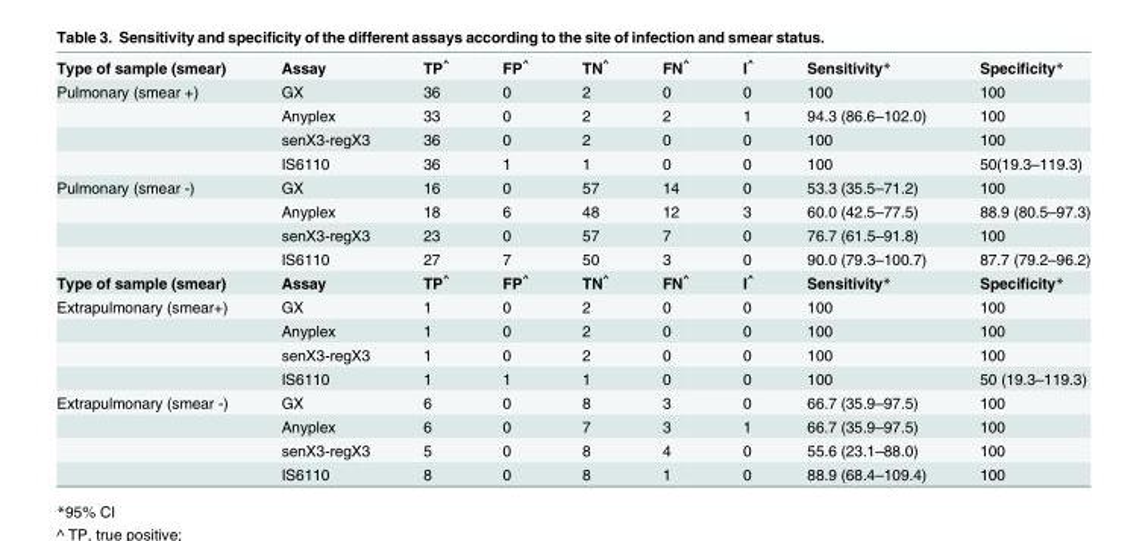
<table><tbody><tr><td>Type of sample (smear)</td><td>Assay</td><td>TP<sup>^</sup></td><td>FP<sup>^</sup></td><td>TN<sup>^</sup></td><td>FN<sup>^</sup></td><td>I<sup>^</sup></td><td>Sensitivity*</td><td>Specificity*</td></tr><tr><td rowspan="4">Pulmonary (smear +)</td><td>GX</td><td>36</td><td>0</td><td>2</td><td>0</td><td>0</td><td>100</td><td>100</td></tr><tr><td>Anyplex</td><td>33</td><td>0</td><td>2</td><td>2</td><td>1</td><td>94.3 (86.6–102.0)</td><td>100</td></tr><tr><td>senX3-regX3</td><td>36</td><td>0</td><td>2</td><td>0</td><td>0</td><td>100</td><td>100</td></tr><tr><td>IS6110</td><td>36</td><td>1</td><td>1</td><td>0</td><td>0</td><td>100</td><td>50(19.3–119.3)</td></tr><tr><td rowspan="4">Pulmonary (smear -)</td><td>GX</td><td>16</td><td>0</td><td>57</td><td>14</td><td>0</td><td>53.3 (35.5–71.2)</td><td>100</td></tr><tr><td>Anyplex</td><td>18</td><td>6</td><td>48</td><td>12</td><td>3</td><td>60.0 (42.5–77.5)</td><td>88.9 (80.5–97.3)</td></tr><tr><td>senX3-regX3</td><td>23</td><td>0</td><td>57</td><td>7</td><td>0</td><td>76.7 (61.5–91.8)</td><td>100</td></tr><tr><td>IS6110</td><td>27</td><td>7</td><td>50</td><td>3</td><td>0</td><td>90.0 (79.3–100.7)</td><td>87.7 (79.2–96.2)</td></tr><tr><td>Type of sample (smear)</td><td>Assay</td><td>TP<sup>^</sup></td><td>FP<sup>^</sup></td><td>TN<sup>^</sup></td><td>FN<sup>^</sup></td><td>I<sup>^</sup></td><td>Sensitivity*</td><td>Specificity*</td></tr><tr><td rowspan="4">Extrapulmonary (smear+)</td><td>GX</td><td>1</td><td>0</td><td>2</td><td>0</td><td>0</td><td>100</td><td>100</td></tr><tr><td>Anyplex</td><td>1</td><td>0</td><td>2</td><td>0</td><td>0</td><td>100</td><td>100</td></tr><tr><td>senX3-regX3</td><td>1</td><td>0</td><td>2</td><td>0</td><td>0</td><td>100</td><td>100</td></tr><tr><td>IS6110</td><td>1</td><td>1</td><td>1</td><td>0</td><td>0</td><td>100</td><td>50 (19.3–119.3)</td></tr><tr><td rowspan="4">Extrapulmonary (smear -)</td><td>GX</td><td>6</td><td>0</td><td>8</td><td>3</td><td>0</td><td>66.7 (35.9–97.5)</td><td>100</td></tr><tr><td>Anyplex</td><td>6</td><td>0</td><td>7</td><td>3</td><td>1</td><td>66.7 (35.9–97.5)</td><td>100</td></tr><tr><td>senX3-regX3</td><td>5</td><td>0</td><td>8</td><td>4</td><td>0</td><td>55.6 (23.1–88.0)</td><td>100</td></tr><tr><td>IS6110</td><td>8</td><td>0</td><td>8</td><td>1</td><td>0</td><td>88.9 (68.4–109.4)</td><td>100</td></tr></tbody></table>